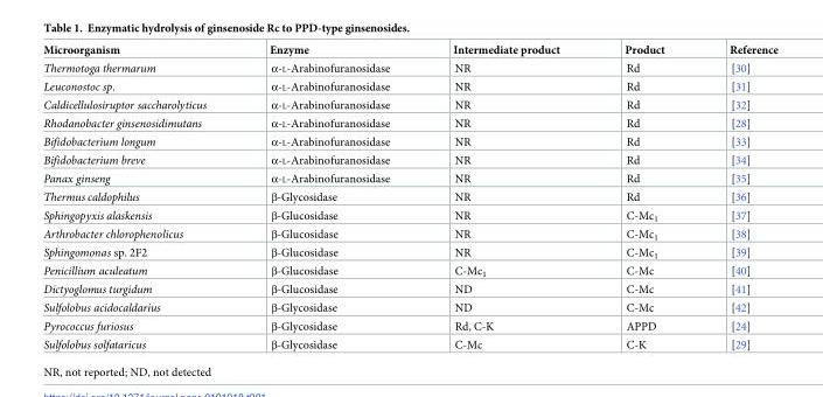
<table><thead><tr><td>Microorganism</td><td>Enzyme</td><td>Intermediate product</td><td>Product</td><td>Reference</td></tr></thead><tbody><tr><td>Thermotoga thermarum</td><td>α-L-Arabinofuranosidase</td><td>NR</td><td>Rd</td><td>[30]</td></tr><tr><td>Leuconostoc sp.</td><td>α-L-Arabinofuranosidase</td><td>NR</td><td>Rd</td><td>[31]</td></tr><tr><td>Caldicellulosiruptor saccharolyticus</td><td>α-L-Arabinofuranosidase</td><td>NR</td><td>Rd</td><td>[32]</td></tr><tr><td>Rhodanobacter ginsenosidimutans</td><td>α-L-Arabinofuranosidase</td><td>NR</td><td>Rd</td><td>[28]</td></tr><tr><td>Bifidobacterium longum</td><td>α-L-Arabinofuranosidase</td><td>NR</td><td>Rd</td><td>[33]</td></tr><tr><td>Bifidobacterium breve</td><td>α-L-Arabinofuranosidase</td><td>NR</td><td>Rd</td><td>[34]</td></tr><tr><td>Panax ginseng</td><td>α-L-Arabinofuranosidase</td><td>NR</td><td>Rd</td><td>[35]</td></tr><tr><td>Thermus caldophilus</td><td>β-Glycosidase</td><td>NR</td><td>Rd</td><td>[36]</td></tr><tr><td>Sphingopyxis alaskensis</td><td>β-Glucosidase</td><td>NR</td><td>C-Mc<sub>1</sub></td><td>[37]</td></tr><tr><td>Arthrobacter chlorophenolicus</td><td>β-Glucosidase</td><td>NR</td><td>C-Mc<sub>1</sub></td><td>[38]</td></tr><tr><td>Sphingomonas sp. 2F2</td><td>β-Glucosidase</td><td>NR</td><td>C-Mc<sub>1</sub></td><td>[39]</td></tr><tr><td>Penicillium aculeatum</td><td>β-Glucosidase</td><td>C-Mc<sub>1</sub></td><td>C-Mc</td><td>[40]</td></tr><tr><td>Dictyoglomus turgidum</td><td>β-Glucosidase</td><td>ND</td><td>C-Mc</td><td>[41]</td></tr><tr><td>Sulfolobus acidocaldarius</td><td>β-Glycosidase</td><td>ND</td><td>C-Mc</td><td>[42]</td></tr><tr><td>Pyrococcus furiosus</td><td>β-Glycosidase</td><td>Rd, C-K</td><td>APPD</td><td>[24]</td></tr><tr><td>Sulfolobus solfataricus</td><td>β-Glycosidase</td><td>C-Mc</td><td>C-K</td><td>[29]</td></tr></tbody></table>